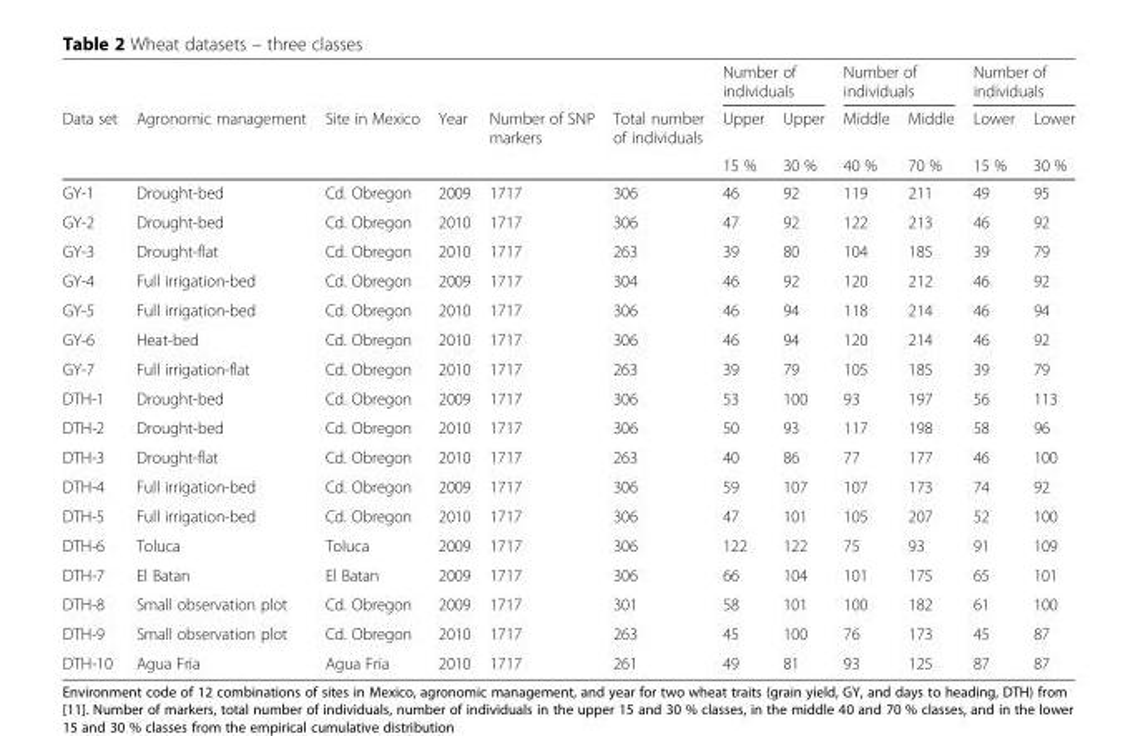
<table><thead><tr><td rowspan="3">Data set</td><td rowspan="3">Agronomic management</td><td rowspan="3">Site in Mexico</td><td rowspan="3">Year</td><td rowspan="3">Number of SNP markers</td><td rowspan="3">Total number of individuals</td><td colspan="2">Number of individuals</td><td colspan="2">Number of individuals</td><td colspan="2">Number of individuals</td></tr><tr><td rowspan="2">Upper 15 %</td><td rowspan="2">Upper 30 %</td><td rowspan="2">Middle 40 %</td><td rowspan="2">Middle 70 %</td><td rowspan="2">Lower 15 %</td><td rowspan="2">Lower 30 %</td></tr><tr></tr></thead><tbody><tr><td>GY-1</td><td>Drought-bed</td><td>Cd. Obregon</td><td>2009</td><td>1717</td><td>306</td><td>46</td><td>92</td><td>119</td><td>211</td><td>49</td><td>95</td></tr><tr><td>GY-2</td><td>Drought-bed</td><td>Cd. Obregon</td><td>2010</td><td>1717</td><td>306</td><td>47</td><td>92</td><td>122</td><td>213</td><td>46</td><td>92</td></tr><tr><td>GY-3</td><td>Drought-flat</td><td>Cd. Obregon</td><td>2010</td><td>1717</td><td>263</td><td>39</td><td>80</td><td>104</td><td>185</td><td>39</td><td>79</td></tr><tr><td>GY-4</td><td>Full irrigation-bed</td><td>Cd. Obregon</td><td>2009</td><td>1717</td><td>304</td><td>46</td><td>92</td><td>120</td><td>212</td><td>46</td><td>92</td></tr><tr><td>GY-5</td><td>Full irrigation-bed</td><td>Cd. Obregon</td><td>2010</td><td>1717</td><td>306</td><td>46</td><td>94</td><td>118</td><td>214</td><td>46</td><td>94</td></tr><tr><td>GY-6</td><td>Heat-bed</td><td>Cd. Obregon</td><td>2010</td><td>1717</td><td>306</td><td>46</td><td>94</td><td>120</td><td>214</td><td>46</td><td>92</td></tr><tr><td>GY-7</td><td>Full irrigation-flat</td><td>Cd. Obregon</td><td>2010</td><td>1717</td><td>263</td><td>39</td><td>79</td><td>105</td><td>185</td><td>39</td><td>79</td></tr><tr><td>DTH-1</td><td>Drought-bed</td><td>Cd. Obregon</td><td>2009</td><td>1717</td><td>306</td><td>53</td><td>100</td><td>93</td><td>197</td><td>56</td><td>113</td></tr><tr><td>DTH-2</td><td>Drought-bed</td><td>Cd. Obregon</td><td>2010</td><td>1717</td><td>306</td><td>50</td><td>93</td><td>117</td><td>198</td><td>58</td><td>96</td></tr><tr><td>DTH-3</td><td>Drought-flat</td><td>Cd. Obregon</td><td>2010</td><td>1717</td><td>263</td><td>40</td><td>86</td><td>77</td><td>177</td><td>46</td><td>100</td></tr><tr><td>DTH-4</td><td>Full irrigation-bed</td><td>Cd. Obregon</td><td>2009</td><td>1717</td><td>306</td><td>59</td><td>107</td><td>107</td><td>173</td><td>74</td><td>92</td></tr><tr><td>DTH-5</td><td>Full irrigation-bed</td><td>Cd. Obregon</td><td>2010</td><td>1717</td><td>306</td><td>47</td><td>101</td><td>105</td><td>207</td><td>52</td><td>100</td></tr><tr><td>DTH-6</td><td>Toluca</td><td>Toluca</td><td>2009</td><td>1717</td><td>306</td><td>122</td><td>122</td><td>75</td><td>93</td><td>91</td><td>109</td></tr><tr><td>DTH-7</td><td>El Batan</td><td>El Batan</td><td>2009</td><td>1717</td><td>306</td><td>66</td><td>104</td><td>101</td><td>175</td><td>65</td><td>101</td></tr><tr><td>DTH-8</td><td>Small observation plot</td><td>Cd. Obregon</td><td>2009</td><td>1717</td><td>301</td><td>58</td><td>101</td><td>100</td><td>182</td><td>61</td><td>100</td></tr><tr><td>DTH-9</td><td>Small observation plot</td><td>Cd. Obregon</td><td>2010</td><td>1717</td><td>263</td><td>45</td><td>100</td><td>76</td><td>173</td><td>45</td><td>87</td></tr><tr><td>DTH-10</td><td>Agua Fria</td><td>Agua Fria</td><td>2010</td><td>1717</td><td>261</td><td>49</td><td>81</td><td>93</td><td>125</td><td>87</td><td>87</td></tr></tbody></table>